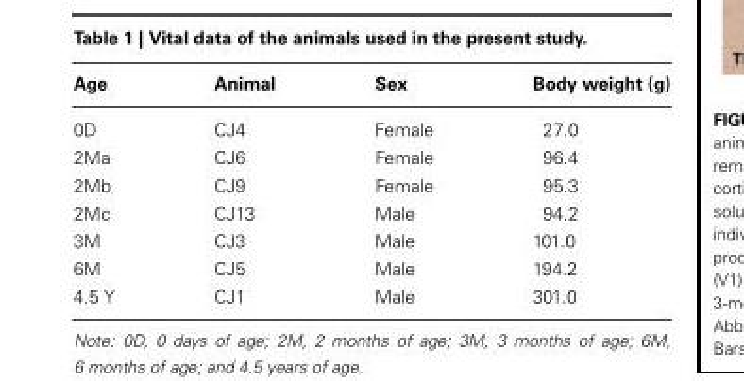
<table><thead><tr><td>Age</td><td>Animal</td><td>Sex</td><td>Body weight (g)</td></tr></thead><tbody><tr><td>0D</td><td>CJ4</td><td>Female</td><td>27.0</td></tr><tr><td>2Ma</td><td>CJ6</td><td>Female</td><td>96.4</td></tr><tr><td>2Mb</td><td>CJ9</td><td>Female</td><td>95.3</td></tr><tr><td>2Mc</td><td>CJ13</td><td>Male</td><td>94.2</td></tr><tr><td>3M</td><td>CJ3</td><td>Male</td><td>101.0</td></tr><tr><td>6M</td><td>CJ5</td><td>Male</td><td>194.2</td></tr><tr><td>4.5 Y</td><td>CJ1</td><td>Male</td><td>301.0</td></tr></tbody></table>